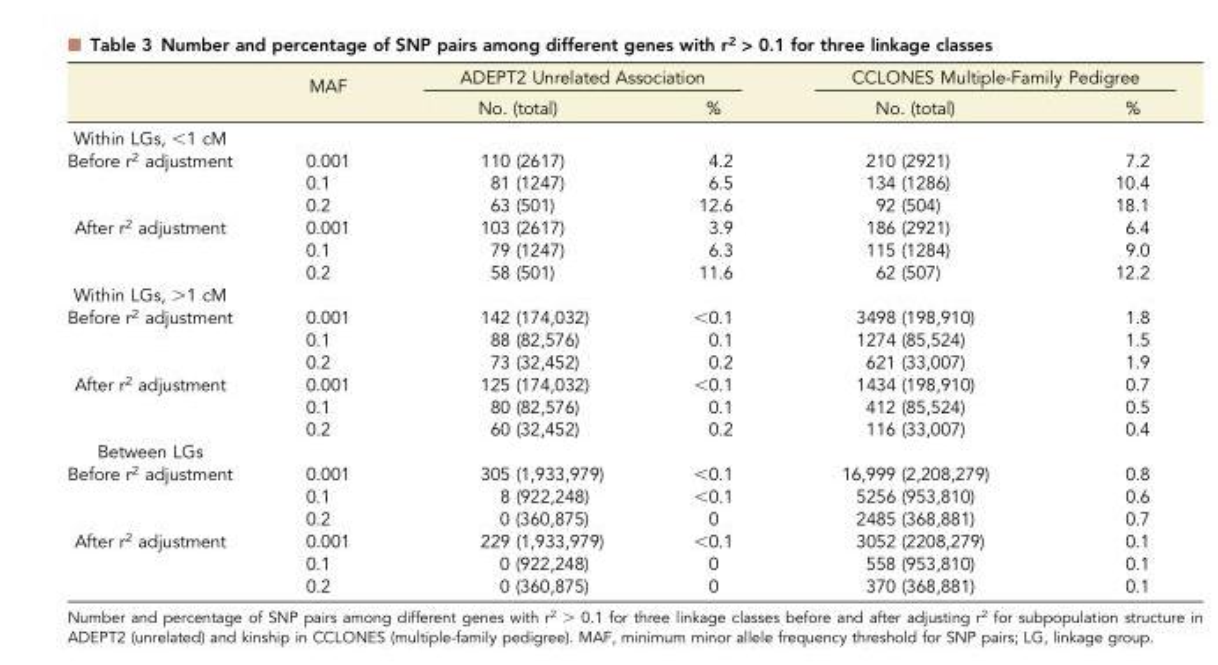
<table><thead><tr><td rowspan="2"></td><td rowspan="2">MAF</td><td colspan="2">ADEPT2 Unrelated Association</td><td colspan="2">CCLONES Multiple-Family Pedigree</td></tr><tr><td>No. (total)</td><td>%</td><td>No. (total)</td><td>%</td></tr></thead><tbody><tr><td colspan="6">Within LGs, &lt;1 cM</td></tr><tr><td rowspan="3">Before r<sup>2</sup> adjustment</td><td>0.001</td><td>110 (2617)</td><td>4.2</td><td>210 (2921)</td><td>7.2</td></tr><tr><td>0.1</td><td>81 (1247)</td><td>6.5</td><td>134 (1286)</td><td>10.4</td></tr><tr><td>0.2</td><td>63 (501)</td><td>12.6</td><td>92 (504)</td><td>18.1</td></tr><tr><td rowspan="3">After r<sup>2</sup> adjustment</td><td>0.001</td><td>103 (2617)</td><td>3.9</td><td>186 (2921)</td><td>6.4</td></tr><tr><td>0.1</td><td>79 (1247)</td><td>6.3</td><td>115 (1284)</td><td>9.0</td></tr><tr><td>0.2</td><td>58 (501)</td><td>11.6</td><td>62 (507)</td><td>12.2</td></tr><tr><td colspan="6">Within LGs, &gt;1 cM</td></tr><tr><td rowspan="3">Before r<sup>2</sup> adjustment</td><td>0.001</td><td>142 (174,032)</td><td>&lt;0.1</td><td>3498 (198,910)</td><td>1.8</td></tr><tr><td>0.1</td><td>88 (82,576)</td><td>0.1</td><td>1274 (85,524)</td><td>1.5</td></tr><tr><td>0.2</td><td>73 (32,452)</td><td>0.2</td><td>621 (33,007)</td><td>1.9</td></tr><tr><td rowspan="3">After r<sup>2</sup> adjustment</td><td>0.001</td><td>125 (174,032)</td><td>&lt;0.1</td><td>1434 (198,910)</td><td>0.7</td></tr><tr><td>0.1</td><td>80 (82,576)</td><td>0.1</td><td>412 (85,524)</td><td>0.5</td></tr><tr><td>0.2</td><td>60 (32,452)</td><td>0.2</td><td>116 (33,007)</td><td>0.4</td></tr><tr><td colspan="6">Between LGs</td></tr><tr><td rowspan="3">Before r<sup>2</sup> adjustment</td><td>0.001</td><td>305 (1,933,979)</td><td>&lt;0.1</td><td>16,999 (2,208,279)</td><td>0.8</td></tr><tr><td>0.1</td><td>8 (922,248)</td><td>&lt;0.1</td><td>5256 (953,810)</td><td>0.6</td></tr><tr><td>0.2</td><td>0 (360,875)</td><td>0</td><td>2485 (368,881)</td><td>0.7</td></tr><tr><td rowspan="3">After r<sup>2</sup> adjustment</td><td>0.001</td><td>229 (1,933,979)</td><td>&lt;0.1</td><td>3052 (2208,279)</td><td>0.1</td></tr><tr><td>0.1</td><td>0 (922,248)</td><td>0</td><td>558 (953,810)</td><td>0.1</td></tr><tr><td>0.2</td><td>0 (360,875)</td><td>0</td><td>370 (368,881)</td><td>0.1</td></tr></tbody></table>